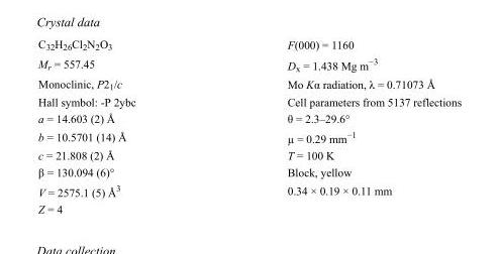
<table><tbody><tr><td>C<sub>32</sub>H<sub>26</sub>Cl<sub>2</sub>N<sub>2</sub>O<sub>3</sub></td><td>F(000) = 1160</td></tr><tr><td>M<sub>r</sub> = 557.45</td><td>D<sub>x</sub> = 1.438 Mg m<sup>−3</sup></td></tr><tr><td>Monoclinic, P2<sub>1</sub>/c</td><td>Mo Kα radiation, λ = 0.71073 Å</td></tr><tr><td>Hall symbol: -P 2ybc</td><td>Cell parameters from 5137 reflections</td></tr><tr><td>a = 14.603 (2) Å</td><td>θ = 2.3–29.6°</td></tr><tr><td>b = 10.5701 (14) Å</td><td>µ = 0.29 mm<sup>−1</sup></td></tr><tr><td>c = 21.808 (2) Å</td><td>T = 100 K</td></tr><tr><td>β = 130.094 (6)°</td><td>Block, yellow</td></tr><tr><td>V = 2575.1 (5) Å<sup>3</sup></td><td>0.34 × 0.19 × 0.11 mm</td></tr><tr><td>Z = 4</td><td></td></tr></tbody></table>